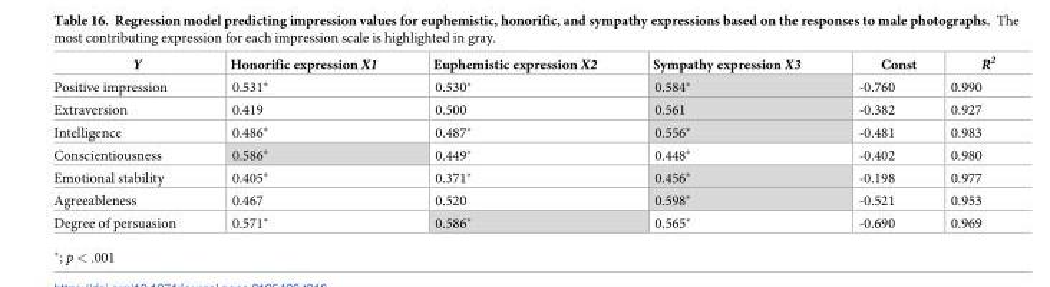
<table><thead><tr><td>Y</td><td>Honorific expression X1</td><td>Euphemistic expression X2</td><td>Sympathy expression X3</td><td>Const</td><td>R<sup>2</sup></td></tr></thead><tbody><tr><td>Positive impression</td><td>0.531*</td><td>0.530*</td><td>0.584*</td><td>-0.760</td><td>0.990</td></tr><tr><td>Extraversion</td><td>0.419</td><td>0.500</td><td>0.561</td><td>-0.382</td><td>0.927</td></tr><tr><td>Intelligence</td><td>0.486*</td><td>0.487*</td><td>0.556*</td><td>-0.481</td><td>0.983</td></tr><tr><td>Conscientiousness</td><td>0.586*</td><td>0.449*</td><td>0.448*</td><td>-0.402</td><td>0.980</td></tr><tr><td>Emotional stability</td><td>0.405*</td><td>0.371*</td><td>0.456*</td><td>-0.198</td><td>0.977</td></tr><tr><td>Agreeableness</td><td>0.467</td><td>0.520</td><td>0.598*</td><td>-0.521</td><td>0.953</td></tr><tr><td>Degree of persuasion</td><td>0.571*</td><td>0.586*</td><td>0.565*</td><td>-0.690</td><td>0.969</td></tr></tbody></table>